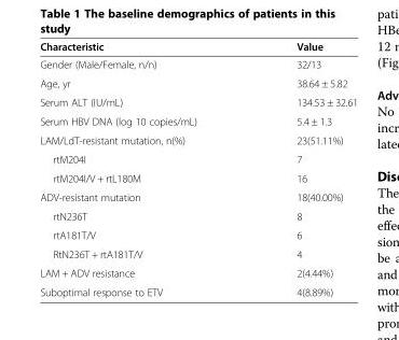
<table><thead><tr><td>Characteristic</td><td>Value</td></tr></thead><tbody><tr><td>Gender (Male/Female, n/n)</td><td>32/13</td></tr><tr><td>Age, yr</td><td>38.64 ± 5.82</td></tr><tr><td>Serum ALT (IU/mL)</td><td>134.53 ± 32.61</td></tr><tr><td>Serum HBV DNA (log 10 copies/mL)</td><td>5.4 ± 1.3</td></tr><tr><td>LAM/LdT-resistant mutation, n(%)</td><td>23(51.11%)</td></tr><tr><td>rtM204I</td><td>7</td></tr><tr><td>rtM204I/V + rtL180M</td><td>16</td></tr><tr><td>ADV-resistant mutation</td><td>18(40.00%)</td></tr><tr><td>rtN236T</td><td>8</td></tr><tr><td>rtA181T/V</td><td>6</td></tr><tr><td>RtN236T + rtA181T/V</td><td>4</td></tr><tr><td>LAM + ADV resistance</td><td>2(4.44%)</td></tr><tr><td>Suboptimal response to ETV</td><td>4(8.89%)</td></tr></tbody></table>